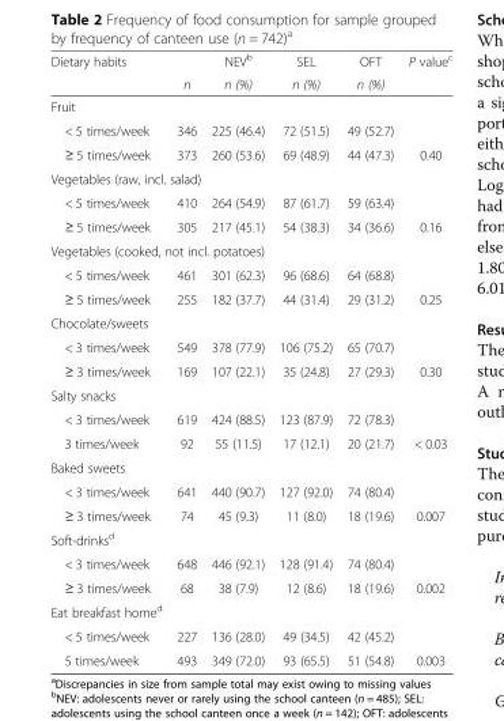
<table><thead><tr><td rowspan="2">Dietary habits</td><td rowspan="2">n</td><td rowspan="2">NEV<sup>b</sup> n (%)</td><td rowspan="2">SEL n (%)</td><td rowspan="2">OFT n (%)</td><td rowspan="2">P value<sup>c</sup></td></tr><tr></tr></thead><tbody><tr><td colspan="6">Fruit</td></tr><tr><td>&lt; 5 times/week</td><td>346</td><td>225 (46.4)</td><td>72 (51.5)</td><td>49 (52.7)</td><td></td></tr><tr><td>≥ 5 times/week</td><td>373</td><td>260 (53.6)</td><td>69 (48.9)</td><td>44 (47.3)</td><td>0.40</td></tr><tr><td colspan="6">Vegetables (raw, incl. salad)</td></tr><tr><td>&lt; 5 times/week</td><td>410</td><td>264 (54.9)</td><td>87 (61.7)</td><td>59 (63.4)</td><td></td></tr><tr><td>≥ 5 times/week</td><td>305</td><td>217 (45.1)</td><td>54 (38.3)</td><td>34 (36.6)</td><td>0.16</td></tr><tr><td colspan="6">Vegetables (cooked, not incl. potatoes)</td></tr><tr><td>&lt; 5 times/week</td><td>461</td><td>301 (62.3)</td><td>96 (68.6)</td><td>64 (68.8)</td><td></td></tr><tr><td>≥ 5 times/week</td><td>255</td><td>182 (37.7)</td><td>44 (31.4)</td><td>29 (31.2)</td><td>0.25</td></tr><tr><td colspan="6">Chocolate/sweets</td></tr><tr><td>&lt; 3 times/week</td><td>549</td><td>378 (77.9)</td><td>106 (75.2)</td><td>65 (70.7)</td><td></td></tr><tr><td>≥ 3 times/week</td><td>169</td><td>107 (22.1)</td><td>35 (24.8)</td><td>27 (29.3)</td><td>0.30</td></tr><tr><td colspan="6">Salty snacks</td></tr><tr><td>&lt; 3 times/week</td><td>619</td><td>424 (88.5)</td><td>123 (87.9)</td><td>72 (78.3)</td><td></td></tr><tr><td>3 times/week</td><td>92</td><td>55 (11.5)</td><td>17 (12.1)</td><td>20 (21.7)</td><td>&lt; 0.03</td></tr><tr><td colspan="6">Baked sweets</td></tr><tr><td>&lt; 3 times/week</td><td>641</td><td>440 (90.7)</td><td>127 (92.0)</td><td>74 (80.4)</td><td></td></tr><tr><td>≥ 3 times/week</td><td>74</td><td>45 (9.3)</td><td>11 (8.0)</td><td>18 (19.6)</td><td>0.007</td></tr><tr><td colspan="6">Soft-drinks<sup>d</sup></td></tr><tr><td>&lt; 3 times/week</td><td>648</td><td>446 (92.1)</td><td>128 (91.4)</td><td>74 (80.4)</td><td></td></tr><tr><td>≥ 3 times/week</td><td>68</td><td>38 (7.9)</td><td>12 (8.6)</td><td>18 (19.6)</td><td>0.002</td></tr><tr><td colspan="6">Eat breakfast home<sup>d</sup></td></tr><tr><td>&lt; 5 times/week</td><td>227</td><td>136 (28.0)</td><td>49 (34.5)</td><td>42 (45.2)</td><td></td></tr><tr><td>5 times/week</td><td>493</td><td>349 (72.0)</td><td>93 (65.5)</td><td>51 (54.8)</td><td>0.003</td></tr></tbody></table>